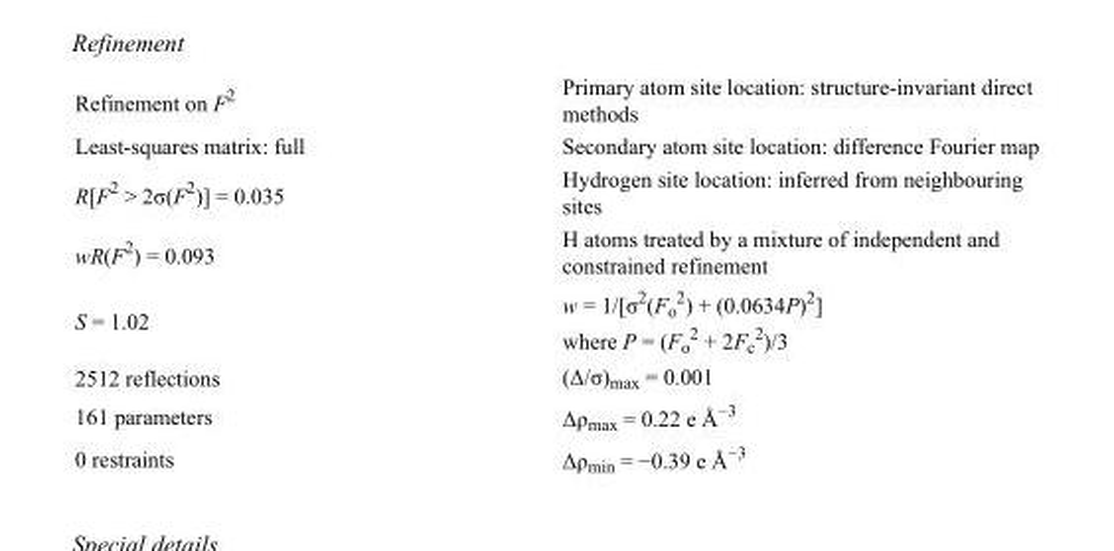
<table><tbody><tr><td>Refinement on F<sup>2</sup></td><td>Primary atom site location: structure-invariant direct methods</td></tr><tr><td>Least-squares matrix: full</td><td>Secondary atom site location: difference Fourier map</td></tr><tr><td>R[F<sup>2</sup> &gt; 2σ(F<sup>2</sup>)] = 0.035</td><td>Hydrogen site location: inferred from neighbouring sites</td></tr><tr><td>wR(F<sup>2</sup>) = 0.093</td><td>H atoms treated by a mixture of independent and constrained refinement</td></tr><tr><td>S = 1.02</td><td>w = 1/[σ<sup>2</sup>(F<sub>o</sub> <sup>2</sup>) + (0.0634P)<sup>2</sup>] where P = (F<sub>o</sub> <sup>2</sup> + 2F<sub>c</sub> <sup>2</sup>)/3</td></tr><tr><td>2512 reflections</td><td>(Δ/σ)<sub>max</sub> = 0.001</td></tr><tr><td>161 parameters</td><td>Δρ<sub>max</sub> = 0.22 e Å<sup>−3</sup></td></tr><tr><td>0 restraints</td><td>Δρ<sub>min</sub> = −0.39 e Å<sup>−3</sup></td></tr></tbody></table>